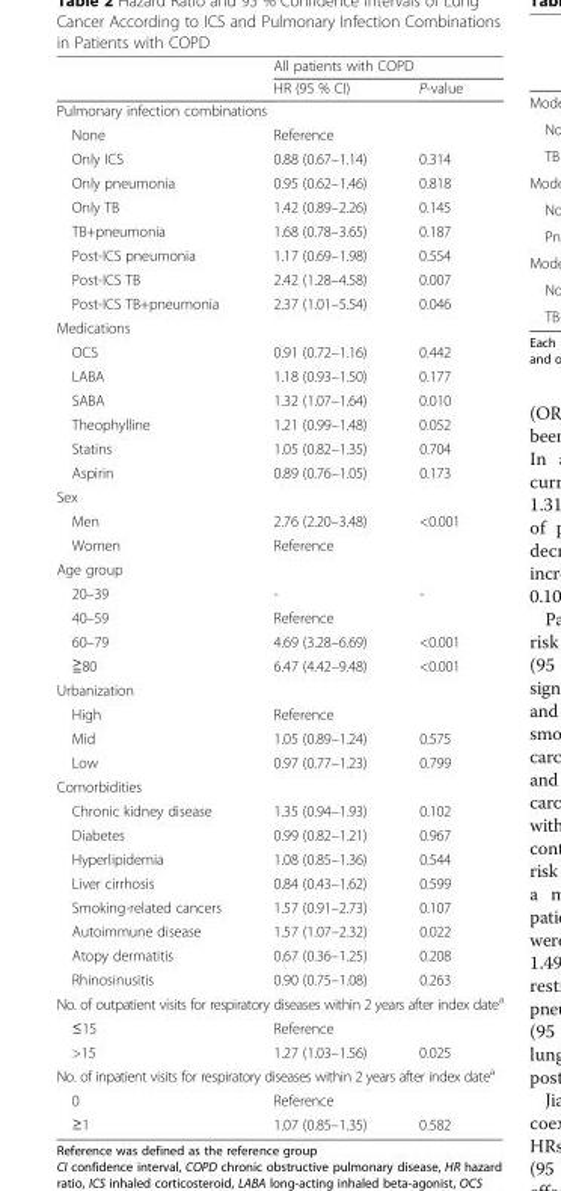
<table><thead><tr><td rowspan="2"></td><td colspan="2">All patients with COPD</td></tr><tr><td>HR (95 % CI)</td><td>P-value</td></tr></thead><tbody><tr><td colspan="3">Pulmonary infection combinations</td></tr><tr><td>None</td><td>Reference</td><td></td></tr><tr><td>Only ICS</td><td>0.88 (0.67–1.14)</td><td>0.314</td></tr><tr><td>Only pneumonia</td><td>0.95 (0.62–1.46)</td><td>0.818</td></tr><tr><td>Only TB</td><td>1.42 (0.89–2.26)</td><td>0.145</td></tr><tr><td>TB+pneumonia</td><td>1.68 (0.78–3.65)</td><td>0.187</td></tr><tr><td>Post-ICS pneumonia</td><td>1.17 (0.69–1.98)</td><td>0.554</td></tr><tr><td>Post-ICS TB</td><td>2.42 (1.28–4.58)</td><td>0.007</td></tr><tr><td>Post-ICS TB+pneumonia</td><td>2.37 (1.01–5.54)</td><td>0.046</td></tr><tr><td colspan="3">Medications</td></tr><tr><td>OCS</td><td>0.91 (0.72–1.16)</td><td>0.442</td></tr><tr><td>LABA</td><td>1.18 (0.93–1.50)</td><td>0.177</td></tr><tr><td>SABA</td><td>1.32 (1.07–1.64)</td><td>0.010</td></tr><tr><td>Theophylline</td><td>1.21 (0.99–1.48)</td><td>0.052</td></tr><tr><td>Statins</td><td>1.05 (0.82–1.35)</td><td>0.704</td></tr><tr><td>Aspirin</td><td>0.89 (0.76–1.05)</td><td>0.173</td></tr><tr><td colspan="3">Sex</td></tr><tr><td>Men</td><td>2.76 (2.20–3.48)</td><td>&lt;0.001</td></tr><tr><td>Women</td><td>Reference</td><td></td></tr><tr><td colspan="3">Age group</td></tr><tr><td>20–39</td><td>-</td><td>-</td></tr><tr><td>40–59</td><td>Reference</td><td></td></tr><tr><td>60–79</td><td>4.69 (3.28–6.69)</td><td>&lt;0.001</td></tr><tr><td>≧80</td><td>6.47 (4.42–9.48)</td><td>&lt;0.001</td></tr><tr><td colspan="3">Urbanization</td></tr><tr><td>High</td><td>Reference</td><td></td></tr><tr><td>Mid</td><td>1.05 (0.89–1.24)</td><td>0.575</td></tr><tr><td>Low</td><td>0.97 (0.77–1.23)</td><td>0.799</td></tr><tr><td colspan="3">Comorbidities</td></tr><tr><td>Chronic kidney disease</td><td>1.35 (0.94–1.93)</td><td>0.102</td></tr><tr><td>Diabetes</td><td>0.99 (0.82–1.21)</td><td>0.967</td></tr><tr><td>Hyperlipidemia</td><td>1.08 (0.85–1.36)</td><td>0.544</td></tr><tr><td>Liver cirrhosis</td><td>0.84 (0.43–1.62)</td><td>0.599</td></tr><tr><td>Smoking-related cancers</td><td>1.57 (0.91–2.73)</td><td>0.107</td></tr><tr><td>Autoimmune disease</td><td>1.57 (1.07–2.32)</td><td>0.022</td></tr><tr><td>Atopy dermatitis</td><td>0.67 (0.36–1.25)</td><td>0.208</td></tr><tr><td>Rhinosinusitis</td><td>0.90 (0.75–1.08)</td><td>0.263</td></tr><tr><td colspan="3">No. of outpatient visits for respiratory diseases within 2 years after index date<sup>a</sup></td></tr><tr><td>≤15</td><td>Reference</td><td></td></tr><tr><td>&gt;15</td><td>1.27 (1.03–1.56)</td><td>0.025</td></tr><tr><td colspan="3">No. of inpatient visits for respiratory diseases within 2 years after index date<sup>a</sup></td></tr><tr><td>0</td><td>Reference</td><td></td></tr><tr><td>≥1</td><td>1.07 (0.85–1.35)</td><td>0.582</td></tr></tbody></table>